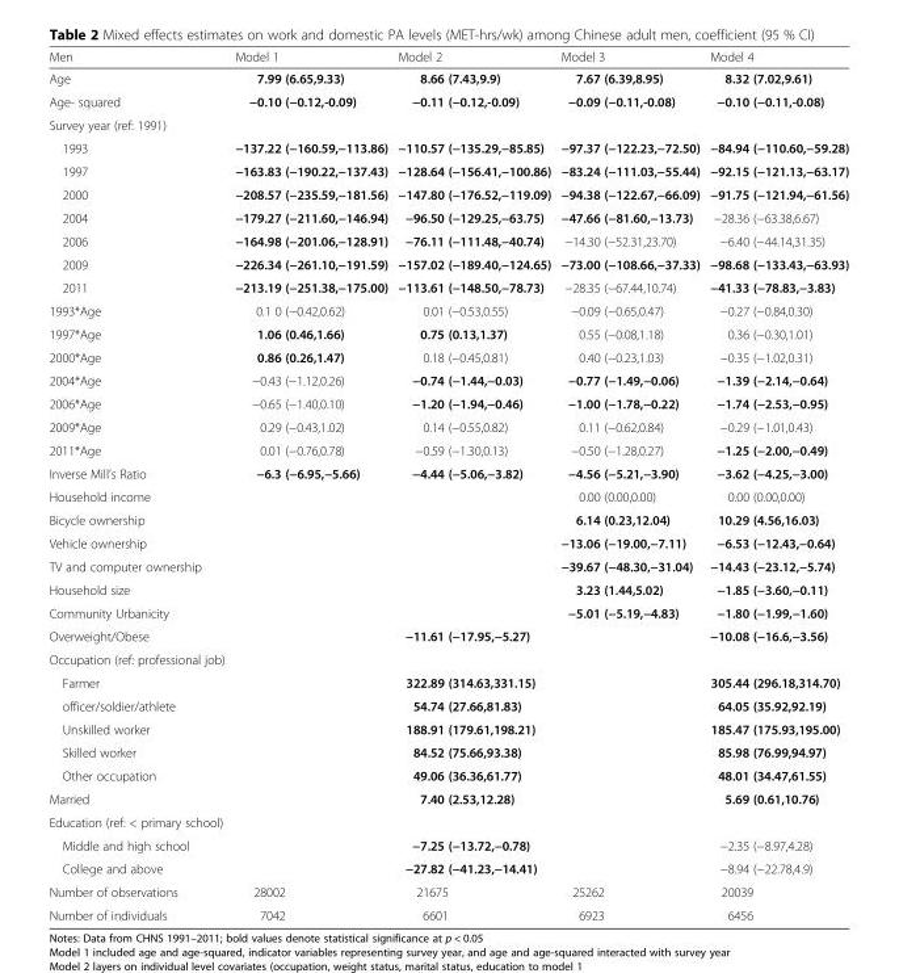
<table><thead><tr><td>Men</td><td>Model 1</td><td>Model 2</td><td>Model 3</td><td>Model 4</td></tr></thead><tbody><tr><td>Age</td><td>7.99 (6.65,9.33)</td><td>8.66 (7.43,9.9)</td><td>7.67 (6.39,8.95)</td><td>8.32 (7.02,9.61)</td></tr><tr><td>Age- squared</td><td>−0.10 (−0.12,-0.09)</td><td>−0.11 (−0.12,-0.09)</td><td>−0.09 (−0.11,-0.08)</td><td>−0.10 (−0.11,-0.08)</td></tr><tr><td colspan="5">Survey year (ref: 1991)</td></tr><tr><td>1993</td><td>−137.22 (−160.59,−113.86)</td><td>−110.57 (−135.29,−85.85)</td><td>−97.37 (−122.23,−72.50)</td><td>−84.94 (−110.60,−59.28)</td></tr><tr><td>1997</td><td>−163.83 (−190.22,−137.43)</td><td>−128.64 (−156.41,−100.86)</td><td>−83.24 (−111.03,−55.44)</td><td>−92.15 (−121.13,−63.17)</td></tr><tr><td>2000</td><td>−208.57 (−235.59,−181.56)</td><td>−147.80 (−176.52,−119.09)</td><td>−94.38 (−122.67,−66.09)</td><td>−91.75 (−121.94,−61.56)</td></tr><tr><td>2004</td><td>−179.27 (−211.60,−146.94)</td><td>−96.50 (−129.25,−63.75)</td><td>−47.66 (−81.60,−13.73)</td><td>−28.36 (−63.38,6.67)</td></tr><tr><td>2006</td><td>−164.98 (−201.06,−128.91)</td><td>−76.11 (−111.48,−40.74)</td><td>−14.30 (−52.31,23.70)</td><td>−6.40 (−44.14,31.35)</td></tr><tr><td>2009</td><td>−226.34 (−261.10,−191.59)</td><td>−157.02 (−189.40,−124.65)</td><td>−73.00 (−108.66,−37.33)</td><td>−98.68 (−133.43,−63.93)</td></tr><tr><td>2011</td><td>−213.19 (−251.38,−175.00)</td><td>−113.61 (−148.50,−78.73)</td><td>−28.35 (−67.44,10.74)</td><td>−41.33 (−78.83,−3.83)</td></tr><tr><td>1993*Age</td><td>0.1 0 (−0.42,0.62)</td><td>0.01 (−0.53,0.55)</td><td>−0.09 (−0.65,0.47)</td><td>−0.27 (−0.84,0.30)</td></tr><tr><td>1997*Age</td><td>1.06 (0.46,1.66)</td><td>0.75 (0.13,1.37)</td><td>0.55 (−0.08,1.18)</td><td>0.36 (−0.30,1.01)</td></tr><tr><td>2000*Age</td><td>0.86 (0.26,1.47)</td><td>0.18 (−0.45,0.81)</td><td>0.40 (−0.23,1.03)</td><td>−0.35 (−1.02,0.31)</td></tr><tr><td>2004*Age</td><td>−0.43 (−1.12,0.26)</td><td>−0.74 (−1.44,−0.03)</td><td>−0.77 (−1.49,−0.06)</td><td>−1.39 (−2.14,−0.64)</td></tr><tr><td>2006*Age</td><td>−0.65 (−1.40,0.10)</td><td>−1.20 (−1.94,−0.46)</td><td>−1.00 (−1.78,−0.22)</td><td>−1.74 (−2.53,−0.95)</td></tr><tr><td>2009*Age</td><td>0.29 (−0.43,1.02)</td><td>0.14 (−0.55,0.82)</td><td>0.11 (−0.62,0.84)</td><td>−0.29 (−1.01,0.43)</td></tr><tr><td>2011*Age</td><td>0.01 (−0.76,0.78)</td><td>−0.59 (−1.30,0.13)</td><td>−0.50 (−1.28,0.27)</td><td>−1.25 (−2.00,−0.49)</td></tr><tr><td>Inverse Mill’s Ratio</td><td>−6.3 (−6.95,−5.66)</td><td>−4.44 (−5.06,−3.82)</td><td>−4.56 (−5.21,−3.90)</td><td>−3.62 (−4.25,−3.00)</td></tr><tr><td>Household income</td><td></td><td></td><td>0.00 (0.00,0.00)</td><td>0.00 (0.00,0.00)</td></tr><tr><td>Bicycle ownership</td><td></td><td></td><td>6.14 (0.23,12.04)</td><td>10.29 (4.56,16.03)</td></tr><tr><td>Vehicle ownership</td><td></td><td></td><td>−13.06 (−19.00,−7.11)</td><td>−6.53 (−12.43,−0.64)</td></tr><tr><td>TV and computer ownership</td><td></td><td></td><td>−39.67 (−48.30,−31.04)</td><td>−14.43 (−23.12,−5.74)</td></tr><tr><td>Household size</td><td></td><td></td><td>3.23 (1.44,5.02)</td><td>−1.85 (−3.60,−0.11)</td></tr><tr><td>Community Urbanicity</td><td></td><td></td><td>−5.01 (−5.19,−4.83)</td><td>−1.80 (−1.99,−1.60)</td></tr><tr><td>Overweight/Obese</td><td></td><td>−11.61 (−17.95,−5.27)</td><td></td><td>−10.08 (−16.6,−3.56)</td></tr><tr><td colspan="5">Occupation (ref: professional job)</td></tr><tr><td>Farmer</td><td></td><td>322.89 (314.63,331.15)</td><td></td><td>305.44 (296.18,314.70)</td></tr><tr><td>officer/soldier/athlete</td><td></td><td>54.74 (27.66,81.83)</td><td></td><td>64.05 (35.92,92.19)</td></tr><tr><td>Unskilled worker</td><td></td><td>188.91 (179.61,198.21)</td><td></td><td>185.47 (175.93,195.00)</td></tr><tr><td>Skilled worker</td><td></td><td>84.52 (75.66,93.38)</td><td></td><td>85.98 (76.99,94.97)</td></tr><tr><td>Other occupation</td><td></td><td>49.06 (36.36,61.77)</td><td></td><td>48.01 (34.47,61.55)</td></tr><tr><td>Married</td><td></td><td>7.40 (2.53,12.28)</td><td></td><td>5.69 (0.61,10.76)</td></tr><tr><td colspan="5">Education (ref: &lt; primary school)</td></tr><tr><td>Middle and high school</td><td></td><td>−7.25 (−13.72,−0.78)</td><td></td><td>−2.35 (−8.97,4.28)</td></tr><tr><td>College and above</td><td></td><td>−27.82 (−41.23,−14.41)</td><td></td><td>−8.94 (−22.78,4.9)</td></tr><tr><td>Number of observations</td><td>28002</td><td>21675</td><td>25262</td><td>20039</td></tr><tr><td>Number of individuals</td><td>7042</td><td>6601</td><td>6923</td><td>6456</td></tr></tbody></table>